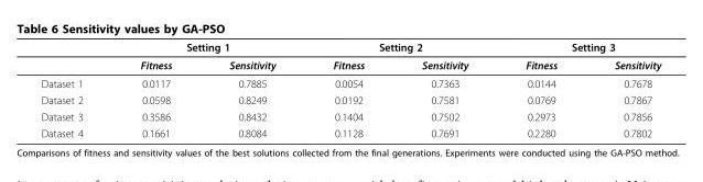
<table><thead><tr><td rowspan="2"></td><td colspan="2">Setting 1</td><td colspan="2">Setting 2</td><td colspan="2">Setting 3</td></tr><tr><td>Fitness</td><td>Sensitivity</td><td>Fitness</td><td>Sensitivity</td><td>Fitness</td><td>Sensitivity</td></tr></thead><tbody><tr><td>Dataset 1</td><td>0.0117</td><td>0.7885</td><td>0.0054</td><td>0.7363</td><td>0.0144</td><td>0.7678</td></tr><tr><td>Dataset 2</td><td>0.0598</td><td>0.8249</td><td>0.0192</td><td>0.7581</td><td>0.0769</td><td>0.7867</td></tr><tr><td>Dataset 3</td><td>0.3586</td><td>0.8432</td><td>0.1404</td><td>0.7502</td><td>0.2973</td><td>0.7856</td></tr><tr><td>Dataset 4</td><td>0.1661</td><td>0.8084</td><td>0.1128</td><td>0.7691</td><td>0.2280</td><td>0.7802</td></tr></tbody></table>